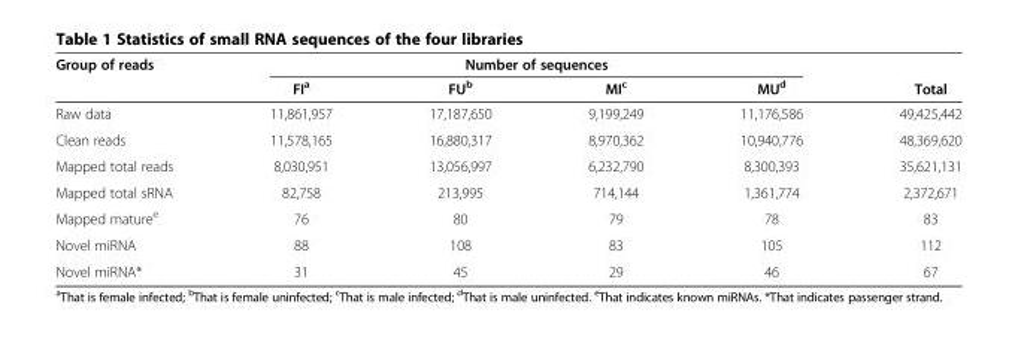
<table><thead><tr><td rowspan="2">Group of reads</td><td colspan="4">Number of sequences</td><td rowspan="2">Total</td></tr><tr><td>FI<sup>a</sup></td><td>FU<sup>b</sup></td><td>MI<sup>c</sup></td><td>MU<sup>d</sup></td></tr></thead><tbody><tr><td>Raw data</td><td>11,861,957</td><td>17,187,650</td><td>9,199,249</td><td>11,176,586</td><td>49,425,442</td></tr><tr><td>Clean reads</td><td>11,578,165</td><td>16,880,317</td><td>8,970,362</td><td>10,940,776</td><td>48,369,620</td></tr><tr><td>Mapped total reads</td><td>8,030,951</td><td>13,056,997</td><td>6,232,790</td><td>8,300,393</td><td>35,621,131</td></tr><tr><td>Mapped total sRNA</td><td>82,758</td><td>213,995</td><td>714,144</td><td>1,361,774</td><td>2,372,671</td></tr><tr><td>Mapped mature<sup>e</sup></td><td>76</td><td>80</td><td>79</td><td>78</td><td>83</td></tr><tr><td>Novel miRNA</td><td>88</td><td>108</td><td>83</td><td>105</td><td>112</td></tr><tr><td>Novel miRNA*</td><td>31</td><td>45</td><td>29</td><td>46</td><td>67</td></tr></tbody></table>